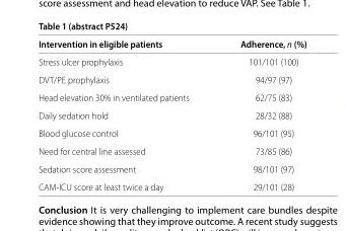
<table><thead><tr><td>Intervention in eligible patients</td><td>Adherence, n (%)</td></tr></thead><tbody><tr><td>Stress ulcer prophylaxis</td><td>101/101 (100)</td></tr><tr><td>DVT/PE prophylaxis</td><td>94/97 (97)</td></tr><tr><td>Head elevation 30% in ventilated patients</td><td>62/75 (83)</td></tr><tr><td>Daily sedation hold</td><td>28/32 (88)</td></tr><tr><td>Blood glucose control</td><td>96/101 (95)</td></tr><tr><td>Need for central line assessed</td><td>73/85 (86)</td></tr><tr><td>Sedation score assessment</td><td>98/101 (97)</td></tr><tr><td>CAM-ICU score at least twice a day</td><td>29/101 (28)</td></tr></tbody></table>